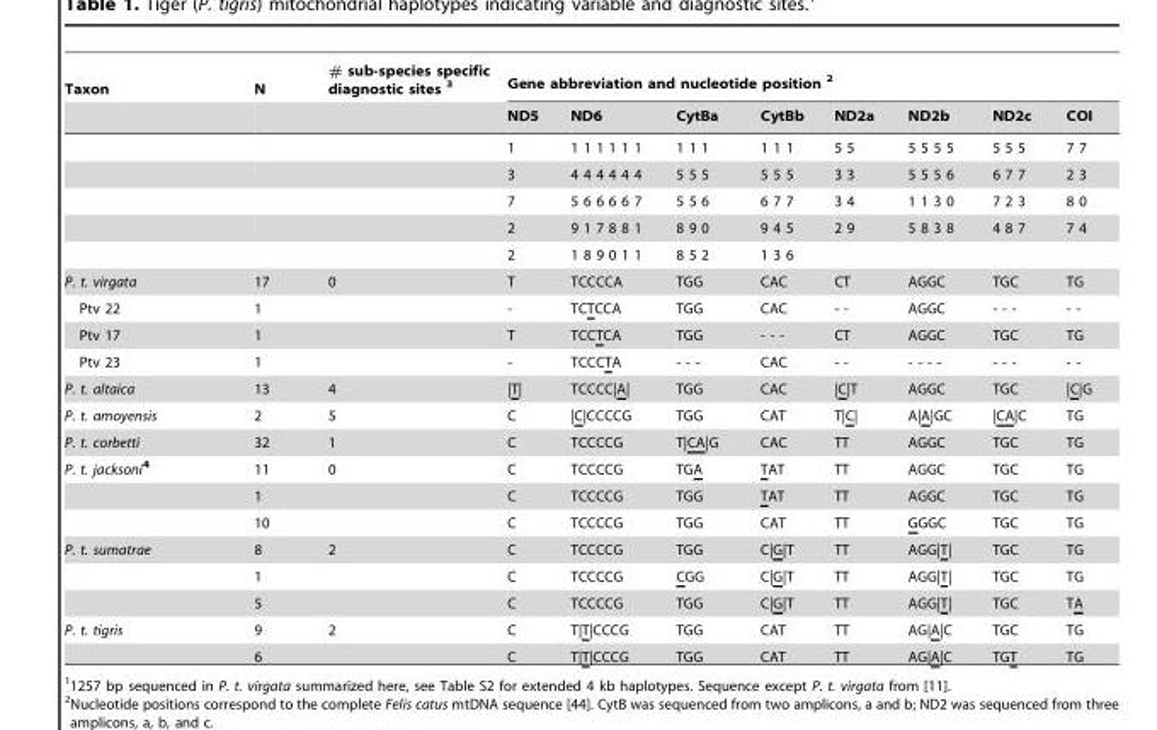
<table><thead><tr><td rowspan="2">Taxon</td><td rowspan="2">N</td><td rowspan="2"># sub-species specific diagnostic sites 3</td><td colspan="8">Gene abbreviation and nucleotide position 2</td></tr><tr><td>ND5</td><td>ND6</td><td>CytBa</td><td>CytBb</td><td>ND2a</td><td>ND2b</td><td>ND2c</td><td>COI</td></tr></thead><tbody><tr><td></td><td></td><td></td><td>1</td><td>1 1 1 1 1 1</td><td>1 1 1</td><td>1 1 1</td><td>5 5</td><td>5 5 5 5</td><td>5 5 5</td><td>7 7</td></tr><tr><td></td><td></td><td></td><td>3</td><td>4 4 4 4 4 4</td><td>5 5 5</td><td>5 5 5</td><td>3 3</td><td>5 5 5 6</td><td>6 7 7</td><td>2 3</td></tr><tr><td></td><td></td><td></td><td>7</td><td>5 6 6 6 6 7</td><td>5 5 6</td><td>6 7 7</td><td>3 4</td><td>1 1 3 0</td><td>7 2 3</td><td>8 0</td></tr><tr><td></td><td></td><td></td><td>2</td><td>9 1 7 8 8 1</td><td>8 9 0</td><td>9 4 5</td><td>2 9</td><td>5 8 3 8</td><td>4 8 7</td><td>7 4</td></tr><tr><td></td><td></td><td></td><td>2</td><td>1 8 9 0 1 1</td><td>8 5 2</td><td>1 3 6</td><td></td><td></td><td></td><td></td></tr><tr><td>P. t. virgata</td><td>17</td><td>0</td><td>T</td><td>TCCCCA</td><td>TGG</td><td>CAC</td><td>CT</td><td>AGGC</td><td>TGC</td><td>TG</td></tr><tr><td>Ptv 22</td><td>1</td><td></td><td>-</td><td>TCTCCA</td><td>TGG</td><td>CAC</td><td>- -</td><td>AGGC</td><td>- - -</td><td>- -</td></tr><tr><td>Ptv 17</td><td>1</td><td></td><td>T</td><td>TCCTCA</td><td>TGG</td><td>- - -</td><td>CT</td><td>AGGC</td><td>TGC</td><td>TG</td></tr><tr><td>Ptv 23</td><td>1</td><td></td><td>-</td><td>TCCCTA</td><td>- - -</td><td>CAC</td><td>- -</td><td>- - - -</td><td>- - -</td><td>- -</td></tr><tr><td>P. t. altaica</td><td>13</td><td>4</td><td>|T|</td><td>TCCCC|A|</td><td>TGG</td><td>CAC</td><td>|C|T</td><td>AGGC</td><td>TGC</td><td>|C|G</td></tr><tr><td>P. t. amoyensis</td><td>2</td><td>5</td><td>C</td><td>|C|CCCCG</td><td>TGG</td><td>CAT</td><td>T|C|</td><td>A|A|GC</td><td>|CA|C</td><td>TG</td></tr><tr><td>P. t. corbetti</td><td>32</td><td>1</td><td>C</td><td>TCCCCG</td><td>T|CA|G</td><td>CAC</td><td>TT</td><td>AGGC</td><td>TGC</td><td>TG</td></tr><tr><td rowspan="3">P. t. jacksoni4</td><td>11</td><td>0</td><td>C</td><td>TCCCCG</td><td>TGA</td><td>TAT</td><td>TT</td><td>AGGC</td><td>TGC</td><td>TG</td></tr><tr><td>1</td><td></td><td>C</td><td>TCCCCG</td><td>TGG</td><td>TAT</td><td>TT</td><td>AGGC</td><td>TGC</td><td>TG</td></tr><tr><td>10</td><td></td><td>C</td><td>TCCCCG</td><td>TGG</td><td>CAT</td><td>TT</td><td>GGGC</td><td>TGC</td><td>TG</td></tr><tr><td rowspan="3">P. t. sumatrae</td><td>8</td><td>2</td><td>C</td><td>TCCCCG</td><td>TGG</td><td>C|G|T</td><td>TT</td><td>AGG|T|</td><td>TGC</td><td>TG</td></tr><tr><td>1</td><td></td><td>C</td><td>TCCCCG</td><td>CGG</td><td>C|G|T</td><td>TT</td><td>AGG|T|</td><td>TGC</td><td>TG</td></tr><tr><td>5</td><td></td><td>C</td><td>TCCCCG</td><td>TGG</td><td>C|G|T</td><td>TT</td><td>AGG|T|</td><td>TGC</td><td>TA</td></tr><tr><td rowspan="2">P. t. tigris</td><td>9</td><td>2</td><td>C</td><td>T|T|CCCG</td><td>TGG</td><td>CAT</td><td>TT</td><td>AG|A|C</td><td>TGC</td><td>TG</td></tr><tr><td>6</td><td></td><td>C</td><td>T|T|CCCG</td><td>TGG</td><td>CAT</td><td>TT</td><td>AG|A|C</td><td>TGT</td><td>TG</td></tr></tbody></table>